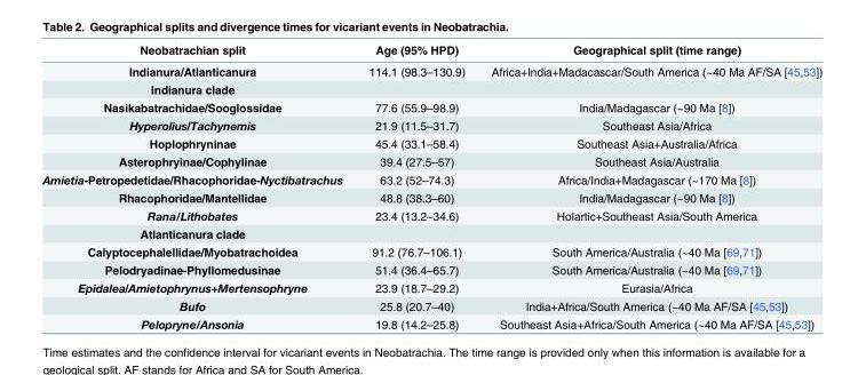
<table><thead><tr><td>Neobatrachian split</td><td>Age (95% HPD)</td><td>Geographical split (time range)</td></tr></thead><tbody><tr><td>Indianura/Atlanticanura</td><td>114.1 (98.3–130.9)</td><td>Africa+India+Madacascar/South America (~40 Ma AF/SA [45,53])</td></tr><tr><td colspan="3">Indianura clade</td></tr><tr><td>Nasikabatrachidae/Sooglossidae</td><td>77.6 (55.9–98.9)</td><td>India/Madagascar (~90 Ma [8])</td></tr><tr><td>Hyperolius/Tachynemis</td><td>21.9 (11.5–31.7)</td><td>Southeast Asia/Africa</td></tr><tr><td>Hoplophryninae</td><td>45.4 (33.1–58.4)</td><td>Southeast Asia+Australia/Africa</td></tr><tr><td>Asterophryinae/Cophylinae</td><td>39.4 (27.5–57)</td><td>Southeast Asia/Australia</td></tr><tr><td>Amietia-Petropedetidae/Rhacophoridae-Nyctibatrachus</td><td>63.2 (52–74.3)</td><td>Africa/India+Madagascar (~170 Ma [8])</td></tr><tr><td>Rhacophoridae/Mantellidae</td><td>48.8 (38.3–60)</td><td>India/Madagascar (~90 Ma [8])</td></tr><tr><td>Rana/Lithobates</td><td>23.4 (13.2–34.6)</td><td>Holartic+Southeast Asia/South America</td></tr><tr><td colspan="3">Atlanticanura clade</td></tr><tr><td>Calyptocephalellidae/Myobatrachoidea</td><td>91.2 (76.7–106.1)</td><td>South America/Australia (~40 Ma [69,71])</td></tr><tr><td>Pelodryadinae-Phyllomedusinae</td><td>51.4 (36.4–65.7)</td><td>South America/Australia (~40 Ma [69,71])</td></tr><tr><td>Epidalea/Amietophrynus+Mertensophryne</td><td>23.9 (18.7–29.2)</td><td>Eurasia/Africa</td></tr><tr><td>Bufo</td><td>25.8 (20.7–40)</td><td>India+Africa/South America (~40 Ma AF/SA [45,53])</td></tr><tr><td>Pelopryne/Ansonia</td><td>19.8 (14.2–25.8)</td><td>Southeast Asia+Africa/South America (~40 Ma AF/SA [45,53])</td></tr></tbody></table>